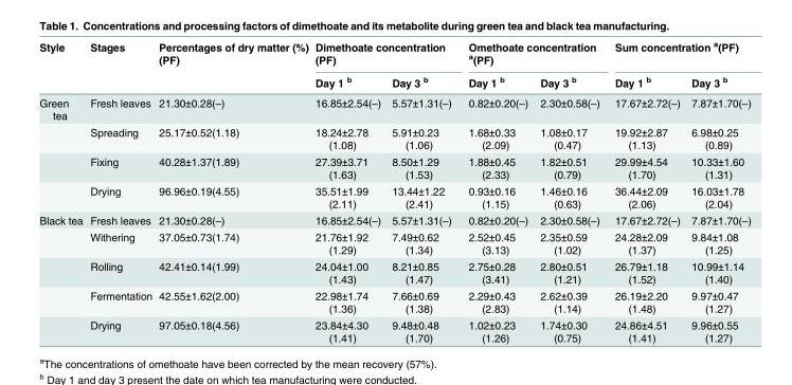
<table><thead><tr><td rowspan="2">Style</td><td rowspan="2">Stages</td><td rowspan="2">Percentages of dry matter (%) (PF)</td><td colspan="2">Dimethoate concentration (PF)</td><td colspan="2">Omethoate concentration <sup>a</sup>(PF)</td><td colspan="2">Sum concentration <sup>a</sup>(PF)</td></tr><tr><td>Day 1 <sup>b</sup></td><td>Day 3 <sup>b</sup></td><td>Day 1 <sup>b</sup></td><td>Day 3 <sup>b</sup></td><td>Day 1 <sup>b</sup></td><td>Day 3 <sup>b</sup></td></tr></thead><tbody><tr><td rowspan="4">Green tea</td><td>Fresh leaves</td><td>21.30±0.28(–)</td><td>16.85±2.54(–)</td><td>5.57±1.31(–)</td><td>0.82±0.20(–)</td><td>2.30±0.58(–)</td><td>17.67±2.72(–)</td><td>7.87±1.70(–)</td></tr><tr><td>Spreading</td><td>25.17±0.52(1.18)</td><td>18.24±2.78 (1.08)</td><td>5.91±0.23 (1.06)</td><td>1.68±0.33 (2.09)</td><td>1.08±0.17 (0.47)</td><td>19.92±2.87 (1.13)</td><td>6.98±0.25 (0.89)</td></tr><tr><td>Fixing</td><td>40.28±1.37(1.89)</td><td>27.39±3.71 (1.63)</td><td>8.50±1.29 (1.53)</td><td>1.88±0.45 (2.33)</td><td>1.82±0.51 (0.79)</td><td>29.99±4.54 (1.70)</td><td>10.33±1.60 (1.31)</td></tr><tr><td>Drying</td><td>96.96±0.19(4.55)</td><td>35.51±1.99 (2.11)</td><td>13.44±1.22 (2.41)</td><td>0.93±0.16 (1.15)</td><td>1.46±0.16 (0.63)</td><td>36.44±2.09 (2.06)</td><td>16.03±1.78 (2.04)</td></tr><tr><td rowspan="5">Black tea</td><td>Fresh leaves</td><td>21.30±0.28(–)</td><td>16.85±2.54(–)</td><td>5.57±1.31(–)</td><td>0.82±0.20(–)</td><td>2.30±0.58(–)</td><td>17.67±2.72(–)</td><td>7.87±1.70(–)</td></tr><tr><td>Withering</td><td>37.05±0.73(1.74)</td><td>21.76±1.92 (1.29)</td><td>7.49±0.62 (1.34)</td><td>2.52±0.45 (3.13)</td><td>2.35±0.59 (1.02)</td><td>24.28±2.09 (1.37)</td><td>9.84±1.08 (1.25)</td></tr><tr><td>Rolling</td><td>42.41±0.14(1.99)</td><td>24.04±1.00 (1.43)</td><td>8.21±0.85 (1.47)</td><td>2.75±0.28 (3.41)</td><td>2.80±0.51 (1.21)</td><td>26.79±1.18 (1.52)</td><td>10.99±1.14 (1.40)</td></tr><tr><td>Fermentation</td><td>42.55±1.62(2.00)</td><td>22.98±1.74 (1.36)</td><td>7.66±0.69 (1.38)</td><td>2.29±0.43 (2.83)</td><td>2.62±0.39 (1.14)</td><td>26.19±2.20 (1.48)</td><td>9.97±0.47 (1.27)</td></tr><tr><td>Drying</td><td>97.05±0.18(4.56)</td><td>23.84±4.30 (1.41)</td><td>9.48±0.48 (1.70)</td><td>1.02±0.23 (1.26)</td><td>1.74±0.30 (0.75)</td><td>24.86±4.51 (1.41)</td><td>9.96±0.55 (1.27)</td></tr></tbody></table>